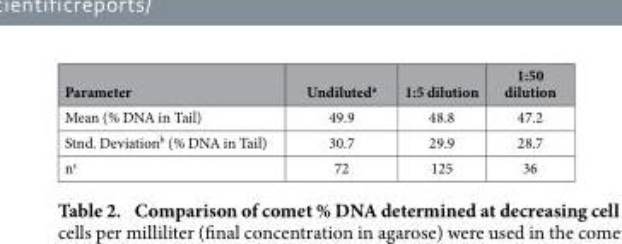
<table><thead><tr><td>Parameter</td><td>Undiluted<sup>a</sup></td><td>1:5 dilution</td><td>1:50 dilution</td></tr></thead><tbody><tr><td>Mean (% DNA in Tail)</td><td>49.9</td><td>48.8</td><td>47.2</td></tr><tr><td>Stnd. Deviation<sup>b</sup> (% DNA in Tail)</td><td>30.7</td><td>29.9</td><td>28.7</td></tr><tr><td>n<sup>c</sup></td><td>72</td><td>125</td><td>36</td></tr></tbody></table>